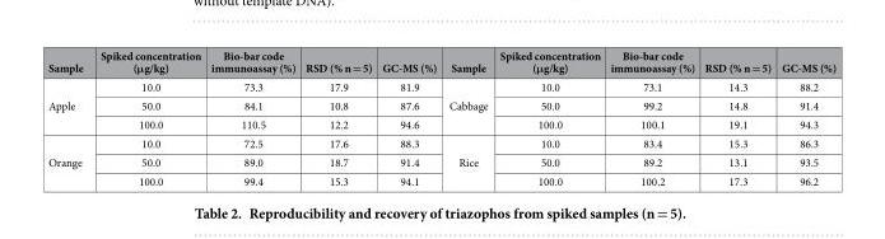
<table><thead><tr><td>Sample</td><td>Spiked concentration (μg/kg)</td><td>Bio-bar code immunoassay (%)</td><td>RSD (% n = 5)</td><td>GC-MS (%)</td><td>Sample</td><td>Spiked concentration (μg/kg)</td><td>Bio-bar code immunoassay (%)</td><td>RSD (% n = 5)</td><td>GC-MS (%)</td></tr></thead><tbody><tr><td rowspan="3">Apple</td><td>10.0</td><td>73.3</td><td>17.9</td><td>81.9</td><td rowspan="3">Cabbage</td><td>10.0</td><td>73.1</td><td>14.3</td><td>88.2</td></tr><tr><td>50.0</td><td>84.1</td><td>10.8</td><td>87.6</td><td>50.0</td><td>99.2</td><td>14.8</td><td>91.4</td></tr><tr><td>100.0</td><td>110.5</td><td>12.2</td><td>94.6</td><td>100.0</td><td>100.1</td><td>19.1</td><td>94.3</td></tr><tr><td rowspan="3">Orange</td><td>10.0</td><td>72.5</td><td>17.6</td><td>88.3</td><td rowspan="3">Rice</td><td>10.0</td><td>83.4</td><td>15.3</td><td>86.3</td></tr><tr><td>50.0</td><td>89.0</td><td>18.7</td><td>91.4</td><td>50.0</td><td>89.2</td><td>13.1</td><td>93.5</td></tr><tr><td>100.0</td><td>99.4</td><td>15.3</td><td>94.1</td><td>100.0</td><td>100.2</td><td>17.3</td><td>96.2</td></tr></tbody></table>